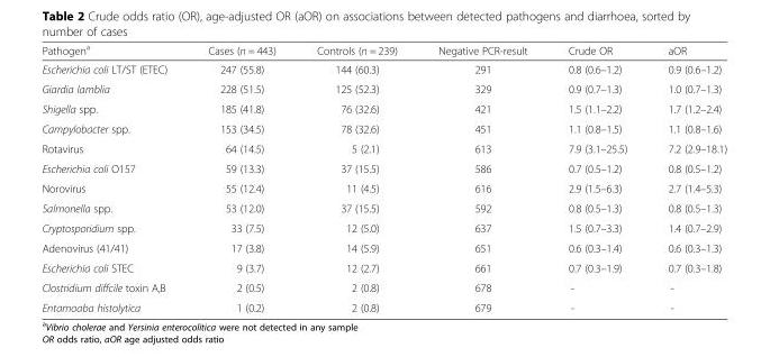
<table><thead><tr><td>Pathogen<sup>a</sup></td><td>Cases (n = 443)</td><td>Controls (n = 239)</td><td>Negative PCR-result</td><td>Crude OR</td><td>aOR</td></tr></thead><tbody><tr><td>Escherichia coli LT/ST (ETEC)</td><td>247 (55.8)</td><td>144 (60.3)</td><td>291</td><td>0.8 (0.6–1.2)</td><td>0.9 (0.6–1.2)</td></tr><tr><td>Giardia lamblia</td><td>228 (51.5)</td><td>125 (52.3)</td><td>329</td><td>0.9 (0.7–1.3)</td><td>1.0 (0.7–1.3)</td></tr><tr><td>Shigella spp.</td><td>185 (41.8)</td><td>76 (32.6)</td><td>421</td><td>1.5 (1.1–2.2)</td><td>1.7 (1.2–2.4)</td></tr><tr><td>Campylobacter spp.</td><td>153 (34.5)</td><td>78 (32.6)</td><td>451</td><td>1.1 (0.8–1.5)</td><td>1.1 (0.8–1.6)</td></tr><tr><td>Rotavirus</td><td>64 (14.5)</td><td>5 (2.1)</td><td>613</td><td>7.9 (3.1–25.5)</td><td>7.2 (2.9–18.1)</td></tr><tr><td>Escherichia coli O157</td><td>59 (13.3)</td><td>37 (15.5)</td><td>586</td><td>0.7 (0.5–1.2)</td><td>0.8 (0.5–1.2)</td></tr><tr><td>Norovirus</td><td>55 (12.4)</td><td>11 (4.5)</td><td>616</td><td>2.9 (1.5–6.3)</td><td>2.7 (1.4–5.3)</td></tr><tr><td>Salmonella spp.</td><td>53 (12.0)</td><td>37 (15.5)</td><td>592</td><td>0.8 (0.5–1.3)</td><td>0.8 (0.5–1.3)</td></tr><tr><td>Cryptosporidium spp.</td><td>33 (7.5)</td><td>12 (5.0)</td><td>637</td><td>1.5 (0.7–3.3)</td><td>1.4 (0.7–2.9)</td></tr><tr><td>Adenovirus (41/41)</td><td>17 (3.8)</td><td>14 (5.9)</td><td>651</td><td>0.6 (0.3–1.4)</td><td>0.6 (0.3–1.3)</td></tr><tr><td>Escherichia coli STEC</td><td>9 (3.7)</td><td>12 (2.7)</td><td>661</td><td>0.7 (0.3–1.9)</td><td>0.7 (0.3–1.8)</td></tr><tr><td>Clostridium diffcile toxin A,B</td><td>2 (0.5)</td><td>2 (0.8)</td><td>678</td><td>-</td><td>-</td></tr><tr><td>Entamoaba histolytica</td><td>1 (0.2)</td><td>2 (0.8)</td><td>679</td><td>-</td><td>-</td></tr></tbody></table>